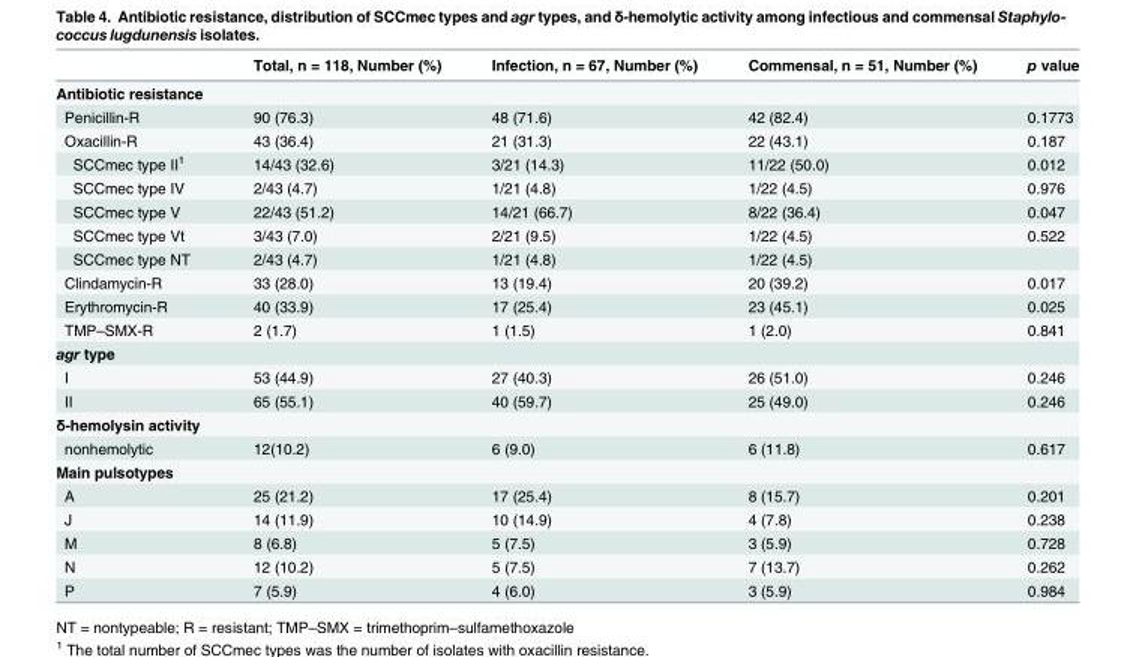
<table><thead><tr><td></td><td>Total, n = 118, Number (%)</td><td>Infection, n = 67, Number (%)</td><td>Commensal, n = 51, Number (%)</td><td>p value</td></tr></thead><tbody><tr><td colspan="5">Antibiotic resistance</td></tr><tr><td>Penicillin-R</td><td>90 (76.3)</td><td>48 (71.6)</td><td>42 (82.4)</td><td>0.1773</td></tr><tr><td>Oxacillin-R</td><td>43 (36.4)</td><td>21 (31.3)</td><td>22 (43.1)</td><td>0.187</td></tr><tr><td>SCCmec type II<sup>1</sup></td><td>14/43 (32.6)</td><td>3/21 (14.3)</td><td>11/22 (50.0)</td><td>0.012</td></tr><tr><td>SCCmec type IV</td><td>2/43 (4.7)</td><td>1/21 (4.8)</td><td>1/22 (4.5)</td><td>0.976</td></tr><tr><td>SCCmec type V</td><td>22/43 (51.2)</td><td>14/21 (66.7)</td><td>8/22 (36.4)</td><td>0.047</td></tr><tr><td>SCCmec type Vt</td><td>3/43 (7.0)</td><td>2/21 (9.5)</td><td>1/22 (4.5)</td><td>0.522</td></tr><tr><td>SCCmec type NT</td><td>2/43 (4.7)</td><td>1/21 (4.8)</td><td>1/22 (4.5)</td><td></td></tr><tr><td>Clindamycin-R</td><td>33 (28.0)</td><td>13 (19.4)</td><td>20 (39.2)</td><td>0.017</td></tr><tr><td>Erythromycin-R</td><td>40 (33.9)</td><td>17 (25.4)</td><td>23 (45.1)</td><td>0.025</td></tr><tr><td>TMP–SMX-R</td><td>2 (1.7)</td><td>1 (1.5)</td><td>1 (2.0)</td><td>0.841</td></tr><tr><td colspan="5">agr type</td></tr><tr><td>I</td><td>53 (44.9)</td><td>27 (40.3)</td><td>26 (51.0)</td><td>0.246</td></tr><tr><td>II</td><td>65 (55.1)</td><td>40 (59.7)</td><td>25 (49.0)</td><td>0.246</td></tr><tr><td colspan="5">δ-hemolysin activity</td></tr><tr><td>nonhemolytic</td><td>12(10.2)</td><td>6 (9.0)</td><td>6 (11.8)</td><td>0.617</td></tr><tr><td colspan="5">Main pulsotypes</td></tr><tr><td>A</td><td>25 (21.2)</td><td>17 (25.4)</td><td>8 (15.7)</td><td>0.201</td></tr><tr><td>J</td><td>14 (11.9)</td><td>10 (14.9)</td><td>4 (7.8)</td><td>0.238</td></tr><tr><td>M</td><td>8 (6.8)</td><td>5 (7.5)</td><td>3 (5.9)</td><td>0.728</td></tr><tr><td>N</td><td>12 (10.2)</td><td>5 (7.5)</td><td>7 (13.7)</td><td>0.262</td></tr><tr><td>P</td><td>7 (5.9)</td><td>4 (6.0)</td><td>3 (5.9)</td><td>0.984</td></tr></tbody></table>